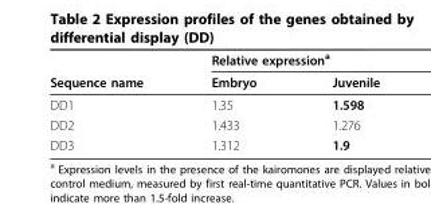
<table><thead><tr><td rowspan="2">Sequence name</td><td colspan="2">Relative expression<sup>a</sup></td></tr><tr><td>Embryo</td><td>Juvenile</td></tr></thead><tbody><tr><td>DD1</td><td>1.35</td><td>1.598</td></tr><tr><td>DD2</td><td>1.433</td><td>1.276</td></tr><tr><td>DD3</td><td>1.312</td><td>1.9</td></tr></tbody></table>